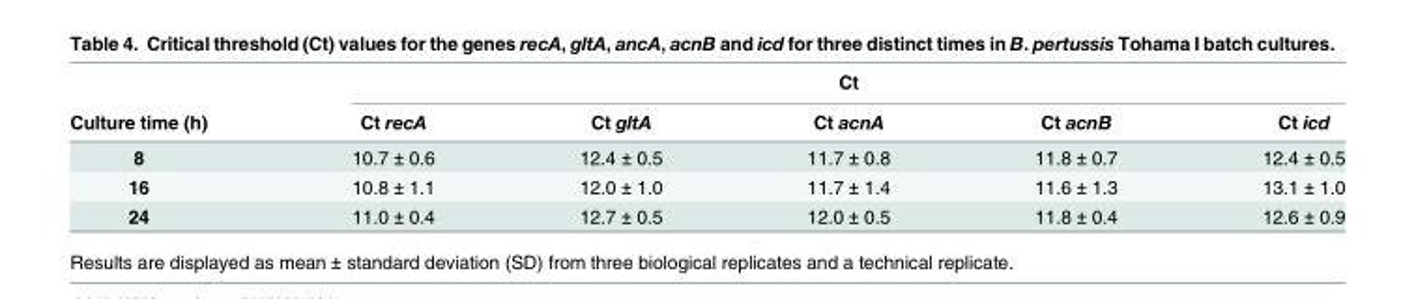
<table><thead><tr><td rowspan="2">Culture time (h)</td><td colspan="5">Ct</td></tr><tr><td>Ct recA</td><td>Ct gltA</td><td>Ct acnA</td><td>Ct acnB</td><td>Ct icd</td></tr></thead><tbody><tr><td>8</td><td>10.7 ± 0.6</td><td>12.4 ± 0.5</td><td>11.7 ± 0.8</td><td>11.8 ± 0.7</td><td>12.4 ± 0.5</td></tr><tr><td>16</td><td>10.8 ± 1.1</td><td>12.0 ± 1.0</td><td>11.7 ± 1.4</td><td>11.6 ± 1.3</td><td>13.1 ± 1.0</td></tr><tr><td>24</td><td>11.0 ± 0.4</td><td>12.7 ± 0.5</td><td>12.0 ± 0.5</td><td>11.8 ± 0.4</td><td>12.6 ± 0.9</td></tr></tbody></table>